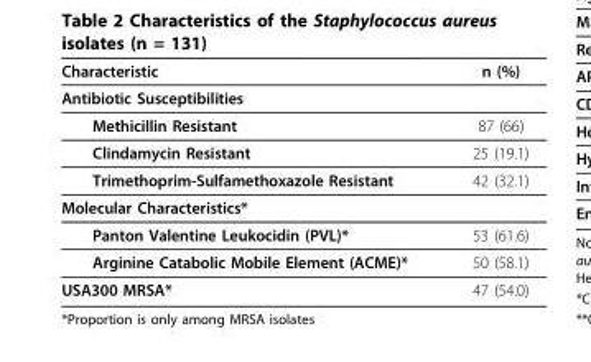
<table><thead><tr><td>Characteristic</td><td>n (%)</td></tr></thead><tbody><tr><td colspan="2">Antibiotic Susceptibilities</td></tr><tr><td>Methicillin Resistant</td><td>87 (66)</td></tr><tr><td>Clindamycin Resistant</td><td>25 (19.1)</td></tr><tr><td>Trimethoprim-Sulfamethoxazole Resistant</td><td>42 (32.1)</td></tr><tr><td colspan="2">Molecular Characteristics*</td></tr><tr><td>Panton Valentine Leukocidin (PVL)*</td><td>53 (61.6)</td></tr><tr><td>Arginine Catabolic Mobile Element (ACME)*</td><td>50 (58.1)</td></tr><tr><td>USA300 MRSA*</td><td>47 (54.0)</td></tr></tbody></table>